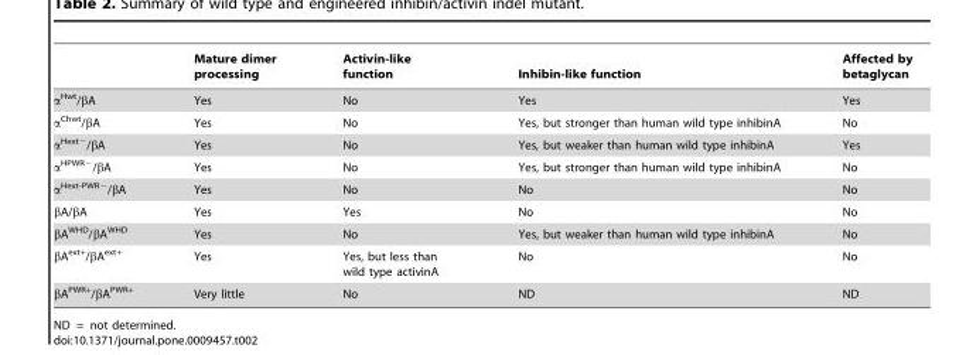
<table><thead><tr><td></td><td>Mature dimer processing</td><td>Activin-like function</td><td>Inhibin-like function</td><td>Affected by betaglycan</td></tr></thead><tbody><tr><td>α<sup>Hwt</sup>/βA</td><td>Yes</td><td>No</td><td>Yes</td><td>Yes</td></tr><tr><td>α<sup>Chwt</sup>/βA</td><td>Yes</td><td>No</td><td>Yes, but stronger than human wild type inhibinA</td><td>No</td></tr><tr><td>α<sup>Hext−</sup>/βA</td><td>Yes</td><td>No</td><td>Yes, but weaker than human wild type inhibinA</td><td>Yes</td></tr><tr><td>α<sup>HPWR−</sup>/βA</td><td>Yes</td><td>No</td><td>Yes, but stronger than human wild type inhibinA</td><td>No</td></tr><tr><td>α<sup>Hext-PWR−</sup>/βA</td><td>Yes</td><td>No</td><td>No</td><td>No</td></tr><tr><td>βA/βA</td><td>Yes</td><td>Yes</td><td>No</td><td>No</td></tr><tr><td>βA<sup>WHD</sup>/βA<sup>WHD</sup></td><td>Yes</td><td>No</td><td>Yes, but weaker than human wild type inhibinA</td><td>No</td></tr><tr><td>βA<sup>ext+</sup>/βA<sup>ext+</sup></td><td>Yes</td><td>Yes, but less than wild type activinA</td><td>No</td><td>No</td></tr><tr><td>βA<sup>PWR+</sup>/βA<sup>PWR+</sup></td><td>Very little</td><td>No</td><td>ND</td><td>ND</td></tr></tbody></table>